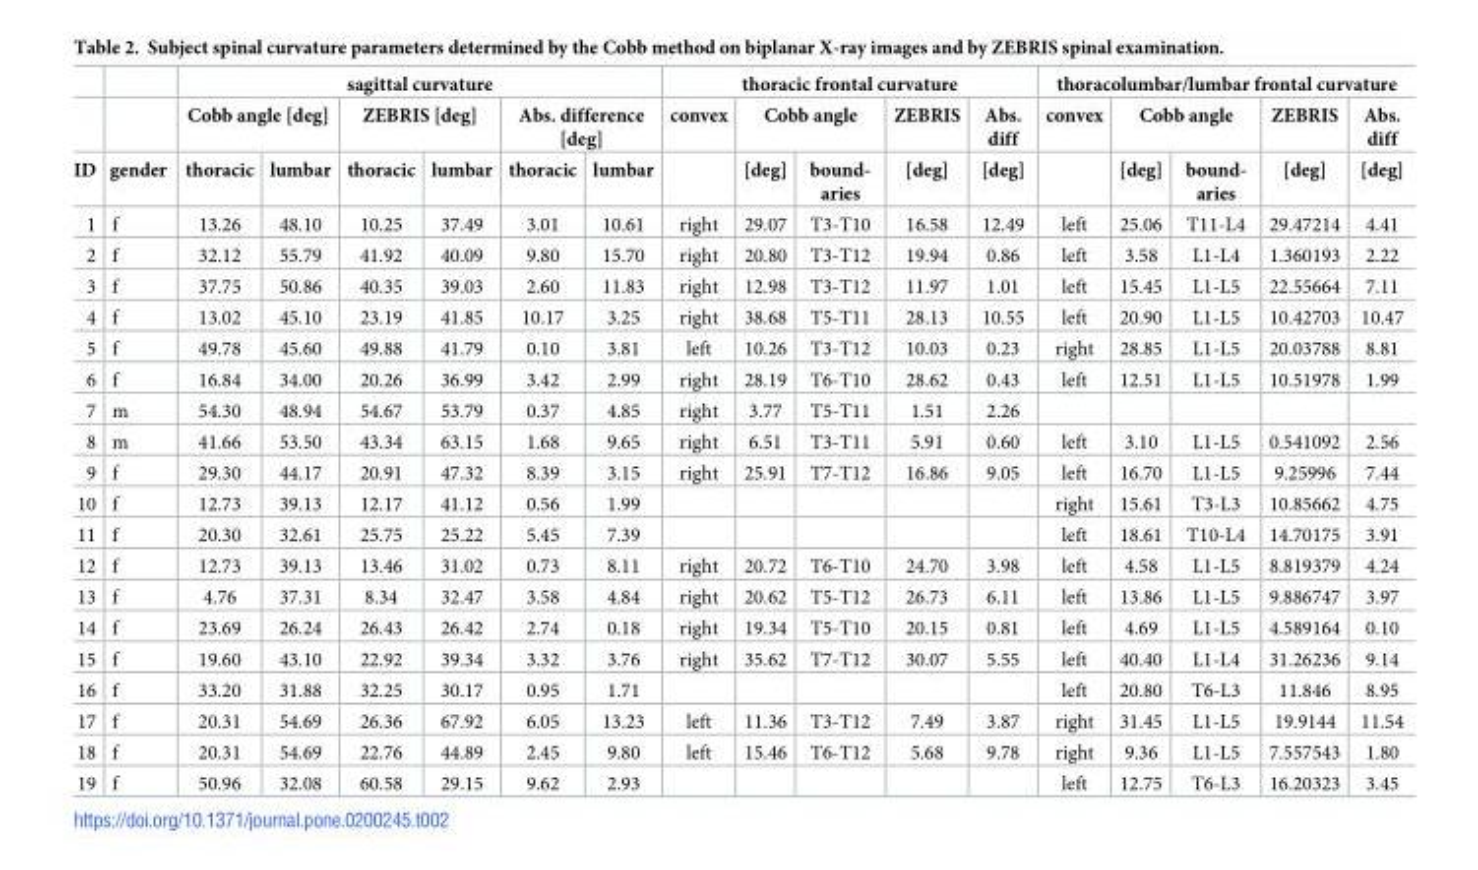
<table><thead><tr><td rowspan="3">ID</td><td rowspan="3">gender</td><td colspan="6">sagittal curvature</td><td colspan="5">thoracic frontal curvature</td><td colspan="5">thoracolumbar/lumbar frontal curvature</td></tr><tr><td colspan="2">Cobb angle [deg]</td><td colspan="2">ZEBRIS [deg]</td><td colspan="2">Abs. difference [deg]</td><td rowspan="2">convex</td><td colspan="2">Cobb angle</td><td rowspan="2">ZEBRIS [deg]</td><td rowspan="2">Abs. diff [deg]</td><td rowspan="2">convex</td><td colspan="2">Cobb angle</td><td rowspan="2">ZEBRIS [deg]</td><td rowspan="2">Abs. diff [deg]</td></tr><tr><td>thoracic</td><td>lumbar</td><td>thoracic</td><td>lumbar</td><td>thoracic</td><td>lumbar</td><td>[deg]</td><td>bound- aries</td><td>[deg]</td><td>bound- aries</td></tr></thead><tbody><tr><td>1</td><td>f</td><td>13.26</td><td>48.10</td><td>10.25</td><td>37.49</td><td>3.01</td><td>10.61</td><td>right</td><td>29.07</td><td>T3-T10</td><td>16.58</td><td>12.49</td><td>left</td><td>25.06</td><td>T11-L4</td><td>29.47214</td><td>4.41</td></tr><tr><td>2</td><td>f</td><td>32.12</td><td>55.79</td><td>41.92</td><td>40.09</td><td>9.80</td><td>15.70</td><td>right</td><td>20.80</td><td>T3-T12</td><td>19.94</td><td>0.86</td><td>left</td><td>3.58</td><td>L1-L4</td><td>1.360193</td><td>2.22</td></tr><tr><td>3</td><td>f</td><td>37.75</td><td>50.86</td><td>40.35</td><td>39.03</td><td>2.60</td><td>11.83</td><td>right</td><td>12.98</td><td>T3-T12</td><td>11.97</td><td>1.01</td><td>left</td><td>15.45</td><td>L1-L5</td><td>22.55664</td><td>7.11</td></tr><tr><td>4</td><td>f</td><td>13.02</td><td>45.10</td><td>23.19</td><td>41.85</td><td>10.17</td><td>3.25</td><td>right</td><td>38.68</td><td>T5-T11</td><td>28.13</td><td>10.55</td><td>left</td><td>20.90</td><td>L1-L5</td><td>10.42703</td><td>10.47</td></tr><tr><td>5</td><td>f</td><td>49.78</td><td>45.60</td><td>49.88</td><td>41.79</td><td>0.10</td><td>3.81</td><td>left</td><td>10.26</td><td>T3-T12</td><td>10.03</td><td>0.23</td><td>right</td><td>28.85</td><td>L1-L5</td><td>20.03788</td><td>8.81</td></tr><tr><td>6</td><td>f</td><td>16.84</td><td>34.00</td><td>20.26</td><td>36.99</td><td>3.42</td><td>2.99</td><td>right</td><td>28.19</td><td>T6-T10</td><td>28.62</td><td>0.43</td><td>left</td><td>12.51</td><td>L1-L5</td><td>10.51978</td><td>1.99</td></tr><tr><td>7</td><td>m</td><td>54.30</td><td>48.94</td><td>54.67</td><td>53.79</td><td>0.37</td><td>4.85</td><td>right</td><td>3.77</td><td>T5-T11</td><td>1.51</td><td>2.26</td><td></td><td></td><td></td><td></td><td></td></tr><tr><td>8</td><td>m</td><td>41.66</td><td>53.50</td><td>43.34</td><td>63.15</td><td>1.68</td><td>9.65</td><td>right</td><td>6.51</td><td>T3-T11</td><td>5.91</td><td>0.60</td><td>left</td><td>3.10</td><td>L1-L5</td><td>0.541092</td><td>2.56</td></tr><tr><td>9</td><td>f</td><td>29.30</td><td>44.17</td><td>20.91</td><td>47.32</td><td>8.39</td><td>3.15</td><td>right</td><td>25.91</td><td>T7-T12</td><td>16.86</td><td>9.05</td><td>left</td><td>16.70</td><td>L1-L5</td><td>9.25996</td><td>7.44</td></tr><tr><td>10</td><td>f</td><td>12.73</td><td>39.13</td><td>12.17</td><td>41.12</td><td>0.56</td><td>1.99</td><td></td><td></td><td></td><td></td><td></td><td>right</td><td>15.61</td><td>T3-L3</td><td>10.85662</td><td>4.75</td></tr><tr><td>11</td><td>f</td><td>20.30</td><td>32.61</td><td>25.75</td><td>25.22</td><td>5.45</td><td>7.39</td><td></td><td></td><td></td><td></td><td></td><td>left</td><td>18.61</td><td>T10-L4</td><td>14.70175</td><td>3.91</td></tr><tr><td>12</td><td>f</td><td>12.73</td><td>39.13</td><td>13.46</td><td>31.02</td><td>0.73</td><td>8.11</td><td>right</td><td>20.72</td><td>T6-T10</td><td>24.70</td><td>3.98</td><td>left</td><td>4.58</td><td>L1-L5</td><td>8.819379</td><td>4.24</td></tr><tr><td>13</td><td>f</td><td>4.76</td><td>37.31</td><td>8.34</td><td>32.47</td><td>3.58</td><td>4.84</td><td>right</td><td>20.62</td><td>T5-T12</td><td>26.73</td><td>6.11</td><td>left</td><td>13.86</td><td>L1-L5</td><td>9.886747</td><td>3.97</td></tr><tr><td>14</td><td>f</td><td>23.69</td><td>26.24</td><td>26.43</td><td>26.42</td><td>2.74</td><td>0.18</td><td>right</td><td>19.34</td><td>T5-T10</td><td>20.15</td><td>0.81</td><td>left</td><td>4.69</td><td>L1-L5</td><td>4.589164</td><td>0.10</td></tr><tr><td>15</td><td>f</td><td>19.60</td><td>43.10</td><td>22.92</td><td>39.34</td><td>3.32</td><td>3.76</td><td>right</td><td>35.62</td><td>T7-T12</td><td>30.07</td><td>5.55</td><td>left</td><td>40.40</td><td>L1-L4</td><td>31.26236</td><td>9.14</td></tr><tr><td>16</td><td>f</td><td>33.20</td><td>31.88</td><td>32.25</td><td>30.17</td><td>0.95</td><td>1.71</td><td></td><td></td><td></td><td></td><td></td><td>left</td><td>20.80</td><td>T6-L3</td><td>11.846</td><td>8.95</td></tr><tr><td>17</td><td>f</td><td>20.31</td><td>54.69</td><td>26.36</td><td>67.92</td><td>6.05</td><td>13.23</td><td>left</td><td>11.36</td><td>T3-T12</td><td>7.49</td><td>3.87</td><td>right</td><td>31.45</td><td>L1-L5</td><td>19.9144</td><td>11.54</td></tr><tr><td>18</td><td>f</td><td>20.31</td><td>54.69</td><td>22.76</td><td>44.89</td><td>2.45</td><td>9.80</td><td>left</td><td>15.46</td><td>T6-T12</td><td>5.68</td><td>9.78</td><td>right</td><td>9.36</td><td>L1-L5</td><td>7.557543</td><td>1.80</td></tr><tr><td>19</td><td>f</td><td>50.96</td><td>32.08</td><td>60.58</td><td>29.15</td><td>9.62</td><td>2.93</td><td></td><td></td><td></td><td></td><td></td><td>left</td><td>12.75</td><td>T6-L3</td><td>16.20323</td><td>3.45</td></tr></tbody></table>